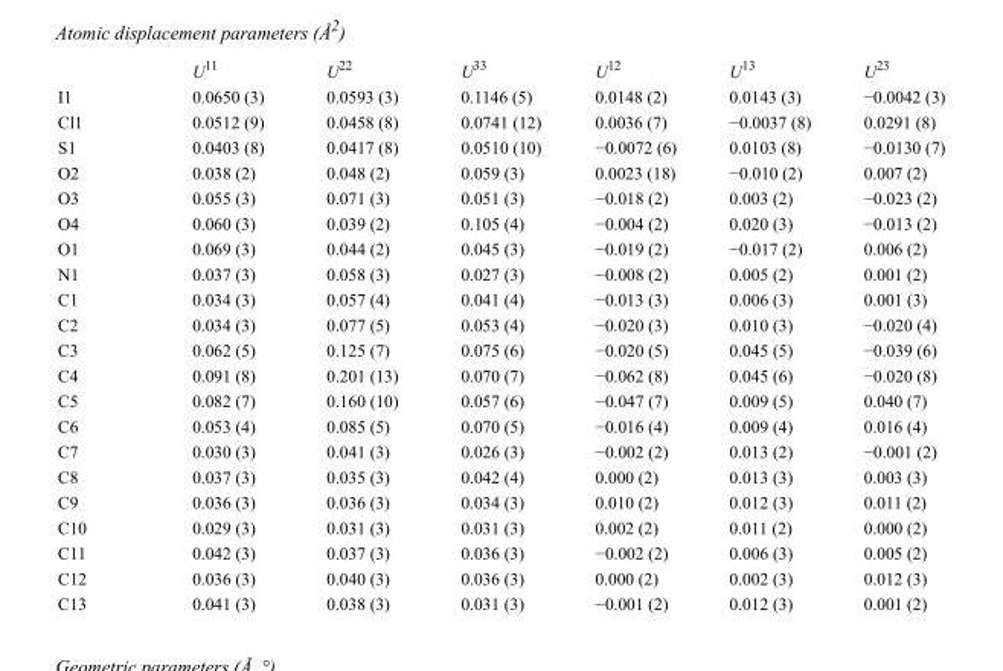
<table><thead><tr><td></td><td>U<sup>11</sup></td><td>U<sup>22</sup></td><td>U<sup>33</sup></td><td>U<sup>12</sup></td><td>U<sup>13</sup></td><td>U<sup>23</sup></td></tr></thead><tbody><tr><td>I1</td><td>0.0650 (3)</td><td>0.0593 (3)</td><td>0.1146 (5)</td><td>0.0148 (2)</td><td>0.0143 (3)</td><td>−0.0042 (3)</td></tr><tr><td>Cl1</td><td>0.0512 (9)</td><td>0.0458 (8)</td><td>0.0741 (12)</td><td>0.0036 (7)</td><td>−0.0037 (8)</td><td>0.0291 (8)</td></tr><tr><td>S1</td><td>0.0403 (8)</td><td>0.0417 (8)</td><td>0.0510 (10)</td><td>−0.0072 (6)</td><td>0.0103 (8)</td><td>−0.0130 (7)</td></tr><tr><td>O2</td><td>0.038 (2)</td><td>0.048 (2)</td><td>0.059 (3)</td><td>0.0023 (18)</td><td>−0.010 (2)</td><td>0.007 (2)</td></tr><tr><td>O3</td><td>0.055 (3)</td><td>0.071 (3)</td><td>0.051 (3)</td><td>−0.018 (2)</td><td>0.003 (2)</td><td>−0.023 (2)</td></tr><tr><td>O4</td><td>0.060 (3)</td><td>0.039 (2)</td><td>0.105 (4)</td><td>−0.004 (2)</td><td>0.020 (3)</td><td>−0.013 (2)</td></tr><tr><td>O1</td><td>0.069 (3)</td><td>0.044 (2)</td><td>0.045 (3)</td><td>−0.019 (2)</td><td>−0.017 (2)</td><td>0.006 (2)</td></tr><tr><td>N1</td><td>0.037 (3)</td><td>0.058 (3)</td><td>0.027 (3)</td><td>−0.008 (2)</td><td>0.005 (2)</td><td>0.001 (2)</td></tr><tr><td>C1</td><td>0.034 (3)</td><td>0.057 (4)</td><td>0.041 (4)</td><td>−0.013 (3)</td><td>0.006 (3)</td><td>0.001 (3)</td></tr><tr><td>C2</td><td>0.034 (3)</td><td>0.077 (5)</td><td>0.053 (4)</td><td>−0.020 (3)</td><td>0.010 (3)</td><td>−0.020 (4)</td></tr><tr><td>C3</td><td>0.062 (5)</td><td>0.125 (7)</td><td>0.075 (6)</td><td>−0.020 (5)</td><td>0.045 (5)</td><td>−0.039 (6)</td></tr><tr><td>C4</td><td>0.091 (8)</td><td>0.201 (13)</td><td>0.070 (7)</td><td>−0.062 (8)</td><td>0.045 (6)</td><td>−0.020 (8)</td></tr><tr><td>C5</td><td>0.082 (7)</td><td>0.160 (10)</td><td>0.057 (6)</td><td>−0.047 (7)</td><td>0.009 (5)</td><td>0.040 (7)</td></tr><tr><td>C6</td><td>0.053 (4)</td><td>0.085 (5)</td><td>0.070 (5)</td><td>−0.016 (4)</td><td>0.009 (4)</td><td>0.016 (4)</td></tr><tr><td>C7</td><td>0.030 (3)</td><td>0.041 (3)</td><td>0.026 (3)</td><td>−0.002 (2)</td><td>0.013 (2)</td><td>−0.001 (2)</td></tr><tr><td>C8</td><td>0.037 (3)</td><td>0.035 (3)</td><td>0.042 (4)</td><td>0.000 (2)</td><td>0.013 (3)</td><td>0.003 (3)</td></tr><tr><td>C9</td><td>0.036 (3)</td><td>0.036 (3)</td><td>0.034 (3)</td><td>0.010 (2)</td><td>0.012 (3)</td><td>0.011 (2)</td></tr><tr><td>C10</td><td>0.029 (3)</td><td>0.031 (3)</td><td>0.031 (3)</td><td>0.002 (2)</td><td>0.011 (2)</td><td>0.000 (2)</td></tr><tr><td>C11</td><td>0.042 (3)</td><td>0.037 (3)</td><td>0.036 (3)</td><td>−0.002 (2)</td><td>0.006 (3)</td><td>0.005 (2)</td></tr><tr><td>C12</td><td>0.036 (3)</td><td>0.040 (3)</td><td>0.036 (3)</td><td>0.000 (2)</td><td>0.002 (3)</td><td>0.012 (3)</td></tr><tr><td>C13</td><td>0.041 (3)</td><td>0.038 (3)</td><td>0.031 (3)</td><td>−0.001 (2)</td><td>0.012 (3)</td><td>0.001 (2)</td></tr></tbody></table>